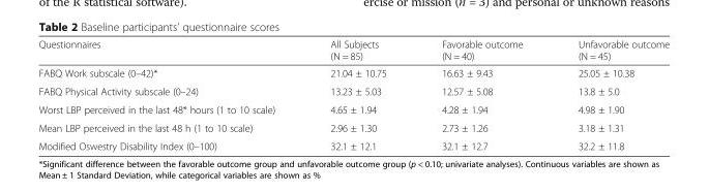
<table><thead><tr><td>Questionnaires</td><td>All Subjects (N = 85)</td><td>Favorable outcome (N = 40)</td><td>Unfavorable outcome (N = 45)</td></tr></thead><tbody><tr><td>FABQ Work subscale (0–42)*</td><td>21.04 ± 10.75</td><td>16.63 ± 9.43</td><td>25.05 ± 10.38</td></tr><tr><td>FABQ Physical Activity subscale (0–24)</td><td>13.23 ± 5.03</td><td>12.57 ± 5.08</td><td>13.8 ± 5.0</td></tr><tr><td>Worst LBP perceived in the last 48* hours (1 to 10 scale)</td><td>4.65 ± 1.94</td><td>4.28 ± 1.94</td><td>4.98 ± 1.90</td></tr><tr><td>Mean LBP perceived in the last 48 h (1 to 10 scale)</td><td>2.96 ± 1.30</td><td>2.73 ± 1.26</td><td>3.18 ± 1.31</td></tr><tr><td>Modified Oswestry Disability Index (0–100)</td><td>32.1 ± 12.1</td><td>32.1 ± 12.7</td><td>32.2 ± 11.8</td></tr></tbody></table>